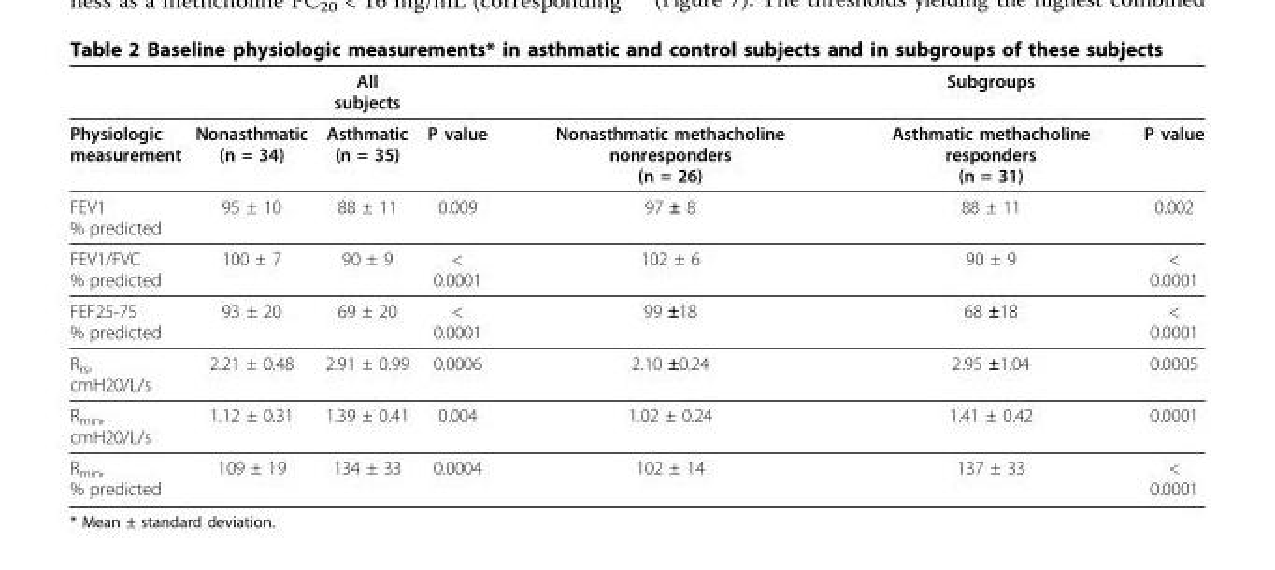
<table><thead><tr><td></td><td></td><td>All subjects</td><td></td><td></td><td>Subgroups</td><td></td></tr></thead><tbody><tr><td>Physiologic measurement</td><td>Nonasthmatic (n = 34)</td><td>Asthmatic (n = 35)</td><td>P value</td><td>Nonasthmatic methacholine nonresponders (n = 26)</td><td>Asthmatic methacholine responders (n = 31)</td><td>P value</td></tr><tr><td>FEV1 % predicted</td><td>95 ± 10</td><td>88 ± 11</td><td>0.009</td><td>97 ± 8</td><td>88 ± 11</td><td>0.002</td></tr><tr><td>FEV1/FVC % predicted</td><td>100 ± 7</td><td>90 ± 9</td><td>&lt; 0.0001</td><td>102 ± 6</td><td>90 ± 9</td><td>&lt; 0.0001</td></tr><tr><td>FEF25-75 % predicted</td><td>93 ± 20</td><td>69 ± 20</td><td>&lt; 0.0001</td><td>99 ±18</td><td>68 ±18</td><td>&lt; 0.0001</td></tr><tr><td>R<sub>rs</sub>, cmH20/L/s</td><td>2.21 ± 0.48</td><td>2.91 ± 0.99</td><td>0.0006</td><td>2.10 ±0.24</td><td>2.95 ±1.04</td><td>0.0005</td></tr><tr><td>R<sub>min</sub>, cmH20/L/s</td><td>1.12 ± 0.31</td><td>1.39 ± 0.41</td><td>0.004</td><td>1.02 ± 0.24</td><td>1.41 ± 0.42</td><td>0.0001</td></tr><tr><td>R<sub>min</sub>, % predicted</td><td>109 ± 19</td><td>134 ± 33</td><td>0.0004</td><td>102 ± 14</td><td>137 ± 33</td><td>&lt; 0.0001</td></tr></tbody></table>